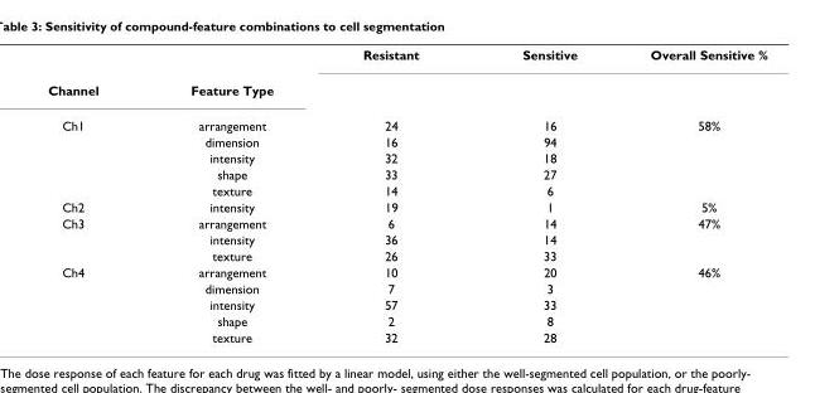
<table><thead><tr><td></td><td></td><td>Resistant</td><td>Sensitive</td><td>Overall Sensitive %</td></tr></thead><tbody><tr><td>Channel</td><td>Feature Type</td><td></td><td></td><td></td></tr><tr><td rowspan="5">Ch1</td><td>arrangement</td><td>24</td><td>16</td><td>58%</td></tr><tr><td>dimension</td><td>16</td><td>94</td><td></td></tr><tr><td>intensity</td><td>32</td><td>18</td><td></td></tr><tr><td>shape</td><td>33</td><td>27</td><td></td></tr><tr><td>texture</td><td>14</td><td>6</td><td></td></tr><tr><td>Ch2</td><td>intensity</td><td>19</td><td>1</td><td>5%</td></tr><tr><td rowspan="3">Ch3</td><td>arrangement</td><td>6</td><td>14</td><td>47%</td></tr><tr><td>intensity</td><td>36</td><td>14</td><td></td></tr><tr><td>texture</td><td>26</td><td>33</td><td></td></tr><tr><td rowspan="5">Ch4</td><td>arrangement</td><td>10</td><td>20</td><td>46%</td></tr><tr><td>dimension</td><td>7</td><td>3</td><td></td></tr><tr><td>intensity</td><td>57</td><td>33</td><td></td></tr><tr><td>shape</td><td>2</td><td>8</td><td></td></tr><tr><td>texture</td><td>32</td><td>28</td><td></td></tr></tbody></table>